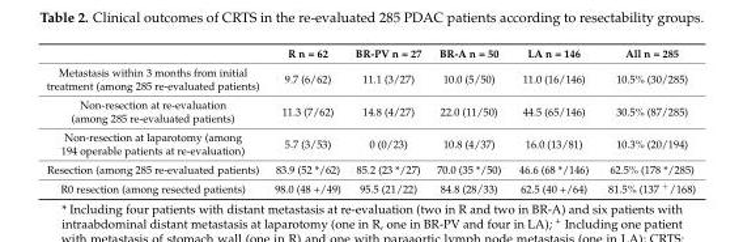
<table><thead><tr><td></td><td>R n = 62</td><td>BR-PV n = 27</td><td>BR-A n = 50</td><td>LA n = 146</td><td>All n = 285</td></tr></thead><tbody><tr><td>Metastasis within 3 months from initial treatment (among 285 re-evaluated patients)</td><td>9.7 (6/62)</td><td>11.1 (3/27)</td><td>10.0 (5/50)</td><td>11.0 (16/146)</td><td>10.5% (30/285)</td></tr><tr><td>Non-resection at re-evaluation (among 285 re-evaluated patients)</td><td>11.3 (7/62)</td><td>14.8 (4/27)</td><td>22.0 (11/50)</td><td>44.5 (65/146)</td><td>30.5% (87/285)</td></tr><tr><td>Non-resection at laparotomy (among 194 operable patients at re-evaluation)</td><td>5.7 (3/53)</td><td>0 (0/23)</td><td>10.8 (4/37)</td><td>16.0 (13/81)</td><td>10.3% (20/194)</td></tr><tr><td>Resection (among 285 re-evaluated patients)</td><td>83.9 (52 */62)</td><td>85.2 (23 */27)</td><td>70.0 (35 */50)</td><td>46.6 (68 */146)</td><td>62.5% (178 */285)</td></tr><tr><td>R0 resection (among resected patients)</td><td>98.0 (48 +/49)</td><td>95.5 (21/22)</td><td>84.8 (28/33)</td><td>62.5 (40 +/64)</td><td>81.5% (137 <sup>+</sup>/168)</td></tr></tbody></table>